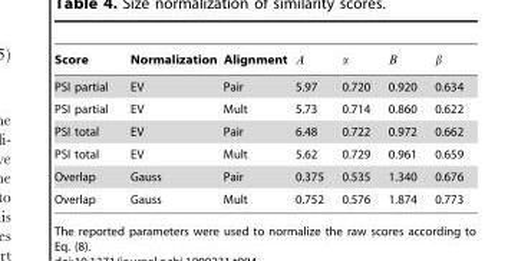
<table><thead><tr><td>Score</td><td>Normalization</td><td>Alignment</td><td>A</td><td>a</td><td>B</td><td>b</td></tr></thead><tbody><tr><td>PSI partial</td><td>EV</td><td>Pair</td><td>5.97</td><td>0.720</td><td>0.920</td><td>0.634</td></tr><tr><td>PSI partial</td><td>EV</td><td>Mult</td><td>5.73</td><td>0.714</td><td>0.860</td><td>0.622</td></tr><tr><td>PSI total</td><td>EV</td><td>Pair</td><td>6.48</td><td>0.722</td><td>0.972</td><td>0.662</td></tr><tr><td>PSI total</td><td>EV</td><td>Mult</td><td>5.62</td><td>0.729</td><td>0.961</td><td>0.659</td></tr><tr><td>Overlap</td><td>Gauss</td><td>Pair</td><td>0.375</td><td>0.535</td><td>1.340</td><td>0.676</td></tr><tr><td>Overlap</td><td>Gauss</td><td>Mult</td><td>0.752</td><td>0.576</td><td>1.874</td><td>0.773</td></tr></tbody></table>